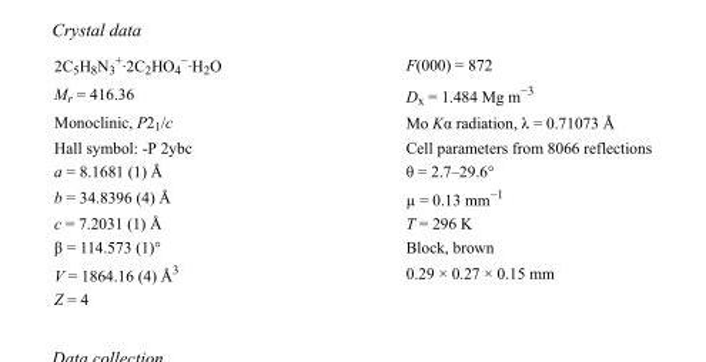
<table><tbody><tr><td>2C<sub>5</sub>H<sub>8</sub>N<sub>3</sub> <sup>+</sup>·2C<sub>2</sub>HO<sub>4</sub> <sup>−</sup>·H<sub>2</sub>O</td><td>F(000) = 872</td></tr><tr><td>M<sub>r</sub> = 416.36</td><td>D<sub>x</sub> = 1.484 Mg m<sup>−3</sup></td></tr><tr><td>Monoclinic, P2<sub>1</sub>/c</td><td>Mo Kα radiation, λ = 0.71073 Å</td></tr><tr><td>Hall symbol: -P 2ybc</td><td>Cell parameters from 8066 reflections</td></tr><tr><td>a = 8.1681 (1) Å</td><td>θ = 2.7–29.6°</td></tr><tr><td>b = 34.8396 (4) Å</td><td>µ = 0.13 mm<sup>−1</sup></td></tr><tr><td>c = 7.2031 (1) Å</td><td>T = 296 K</td></tr><tr><td>β = 114.573 (1)°</td><td>Block, brown</td></tr><tr><td>V = 1864.16 (4) Å<sup>3</sup></td><td>0.29 × 0.27 × 0.15 mm</td></tr><tr><td>Z = 4</td><td></td></tr></tbody></table>